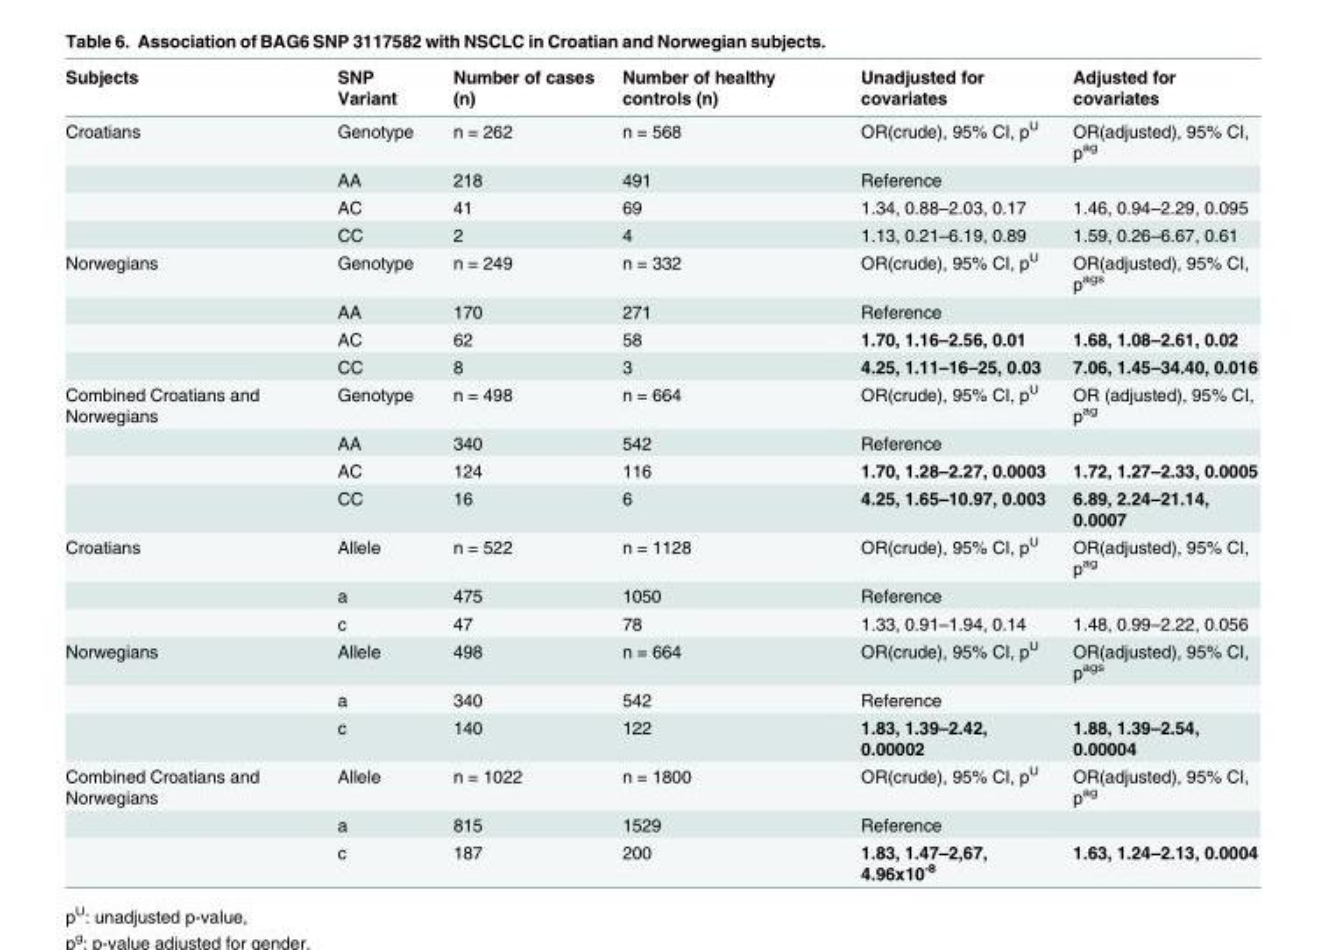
<table><thead><tr><td>Subjects</td><td>SNP Variant</td><td>Number of cases (n)</td><td>Number of healthy controls (n)</td><td>Unadjusted for covariates</td><td>Adjusted for covariates</td></tr></thead><tbody><tr><td rowspan="4">Croatians</td><td>Genotype</td><td>n = 262</td><td>n = 568</td><td>OR(crude), 95% CI, p<sup>U</sup></td><td>OR(adjusted), 95% CI, p<sup>ag</sup></td></tr><tr><td>AA</td><td>218</td><td>491</td><td>Reference</td><td></td></tr><tr><td>AC</td><td>41</td><td>69</td><td>1.34, 0.88–2.03, 0.17</td><td>1.46, 0.94–2.29, 0.095</td></tr><tr><td>CC</td><td>2</td><td>4</td><td>1.13, 0.21–6.19, 0.89</td><td>1.59, 0.26–6.67, 0.61</td></tr><tr><td rowspan="4">Norwegians</td><td>Genotype</td><td>n = 249</td><td>n = 332</td><td>OR(crude), 95% CI, p<sup>U</sup></td><td>OR(adjusted), 95% CI, p<sup>ags</sup></td></tr><tr><td>AA</td><td>170</td><td>271</td><td>Reference</td><td></td></tr><tr><td>AC</td><td>62</td><td>58</td><td>1.70, 1.16–2.56, 0.01</td><td>1.68, 1.08–2.61, 0.02</td></tr><tr><td>CC</td><td>8</td><td>3</td><td>4.25, 1.11–16–25, 0.03</td><td>7.06, 1.45–34.40, 0.016</td></tr><tr><td rowspan="4">Combined Croatians and Norwegians</td><td>Genotype</td><td>n = 498</td><td>n = 664</td><td>OR(crude), 95% CI, p<sup>U</sup></td><td>OR (adjusted), 95% CI, p<sup>ag</sup></td></tr><tr><td>AA</td><td>340</td><td>542</td><td>Reference</td><td></td></tr><tr><td>AC</td><td>124</td><td>116</td><td>1.70, 1.28–2.27, 0.0003</td><td>1.72, 1.27–2.33, 0.0005</td></tr><tr><td>CC</td><td>16</td><td>6</td><td>4.25, 1.65–10.97, 0.003</td><td>6.89, 2.24–21.14, 0.0007</td></tr><tr><td rowspan="3">Croatians</td><td>Allele</td><td>n = 522</td><td>n = 1128</td><td>OR(crude), 95% CI, p<sup>U</sup></td><td>OR(adjusted), 95% CI, p<sup>ag</sup></td></tr><tr><td>a</td><td>475</td><td>1050</td><td>Reference</td><td></td></tr><tr><td>c</td><td>47</td><td>78</td><td>1.33, 0.91–1.94, 0.14</td><td>1.48, 0.99–2.22, 0.056</td></tr><tr><td rowspan="3">Norwegians</td><td>Allele</td><td>498</td><td>n = 664</td><td>OR(crude), 95% CI, p<sup>U</sup></td><td>OR(adjusted), 95% CI, p<sup>ags</sup></td></tr><tr><td>a</td><td>340</td><td>542</td><td>Reference</td><td></td></tr><tr><td>c</td><td>140</td><td>122</td><td>1.83, 1.39–2.42, 0.00002</td><td>1.88, 1.39–2.54, 0.00004</td></tr><tr><td rowspan="3">Combined Croatians and Norwegians</td><td>Allele</td><td>n = 1022</td><td>n = 1800</td><td>OR(crude), 95% CI, p<sup>U</sup></td><td>OR(adjusted), 95% CI, p<sup>ag</sup></td></tr><tr><td>a</td><td>815</td><td>1529</td><td>Reference</td><td></td></tr><tr><td>c</td><td>187</td><td>200</td><td>1.83, 1.47–2,67, 4.96x10<sup>-8</sup></td><td>1.63, 1.24–2.13, 0.0004</td></tr></tbody></table>